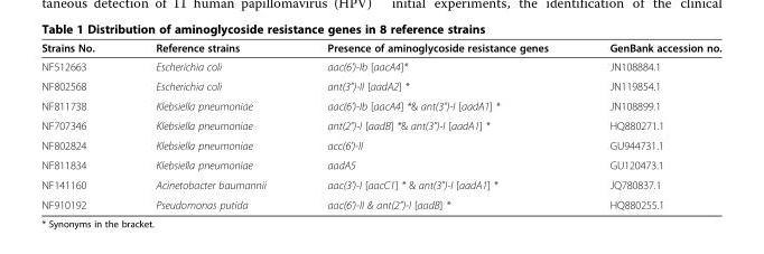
<table><thead><tr><td>Strains No.</td><td>Reference strains</td><td>Presence of aminoglycoside resistance genes</td><td>GenBank accession no.</td></tr></thead><tbody><tr><td>NF512663</td><td>Escherichia coli</td><td>aac(6’)-Ib [aacA4]*</td><td>JN108884.1</td></tr><tr><td>NF802568</td><td>Escherichia coli</td><td>ant(3”)-II [aadA2] *</td><td>JN119854.1</td></tr><tr><td>NF811738</td><td>Klebsiella pneumoniae</td><td>aac(6’)-Ib [aacA4] *&amp; ant(3”)-I [aadA1] *</td><td>JN108899.1</td></tr><tr><td>NF707346</td><td>Klebsiella pneumoniae</td><td>ant(2”)-I [aadB] *&amp; ant(3”)-I [aadA1] *</td><td>HQ880271.1</td></tr><tr><td>NF802824</td><td>Klebsiella pneumoniae</td><td>acc(6’)-II</td><td>GU944731.1</td></tr><tr><td>NF811834</td><td>Klebsiella pneumoniae</td><td>aadA5</td><td>GU120473.1</td></tr><tr><td>NF141160</td><td>Acinetobacter baumannii</td><td>aac(3’)-I [aacC1] * &amp; ant(3”)-I [aadA1] *</td><td>JQ780837.1</td></tr><tr><td>NF910192</td><td>Pseudomonas putida</td><td>aac(6’)-II &amp; ant(2”)-I [aadB] *</td><td>HQ880255.1</td></tr></tbody></table>